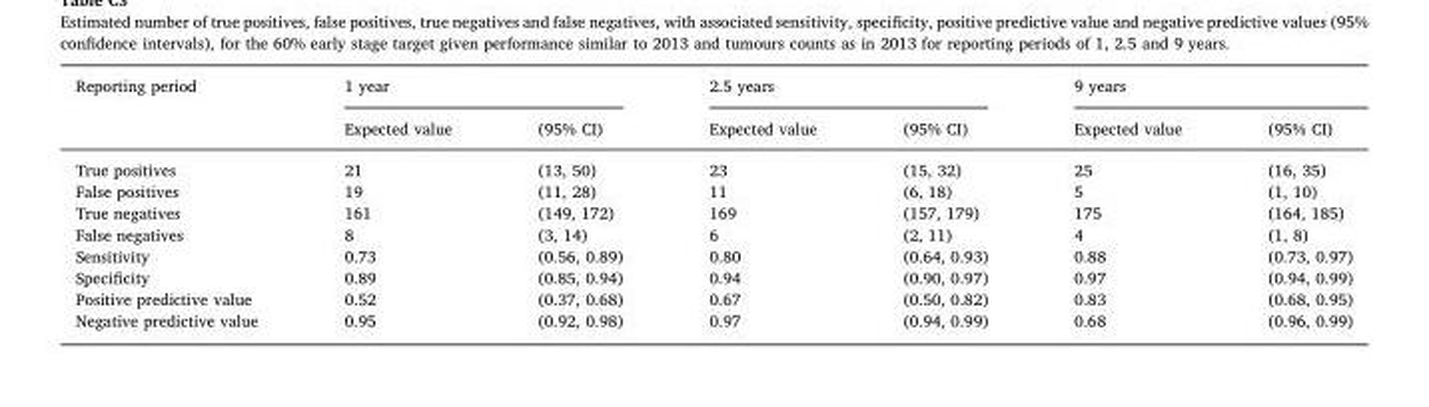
<table><thead><tr><td rowspan="2">Reporting period</td><td colspan="2">1 year</td><td colspan="2">2.5 years</td><td colspan="2">9 years</td></tr><tr><td>Expected value</td><td>(95% CI)</td><td>Expected value</td><td>(95% CI)</td><td>Expected value</td><td>(95% CI)</td></tr></thead><tbody><tr><td>True positives</td><td>21</td><td>(13, 50)</td><td>23</td><td>(15, 32)</td><td>25</td><td>(16, 35)</td></tr><tr><td>False positives</td><td>19</td><td>(11, 28)</td><td>11</td><td>(6, 18)</td><td>5</td><td>(1, 10)</td></tr><tr><td>True negatives</td><td>161</td><td>(149, 172)</td><td>169</td><td>(157, 179)</td><td>175</td><td>(164, 185)</td></tr><tr><td>False negatives</td><td>8</td><td>(3, 14)</td><td>6</td><td>(2, 11)</td><td>4</td><td>(1, 8)</td></tr><tr><td>Sensitivity</td><td>0.73</td><td>(0.56, 0.89)</td><td>0.80</td><td>(0.64, 0.93)</td><td>0.88</td><td>(0.73, 0.97)</td></tr><tr><td>Specificity</td><td>0.89</td><td>(0.85, 0.94)</td><td>0.94</td><td>(0.90, 0.97)</td><td>0.97</td><td>(0.94, 0.99)</td></tr><tr><td>Positive predictive value</td><td>0.52</td><td>(0.37, 0.68)</td><td>0.67</td><td>(0.50, 0.82)</td><td>0.83</td><td>(0.68, 0.95)</td></tr><tr><td>Negative predictive value</td><td>0.95</td><td>(0.92, 0.98)</td><td>0.97</td><td>(0.94, 0.99)</td><td>0.68</td><td>(0.96, 0.99)</td></tr></tbody></table>